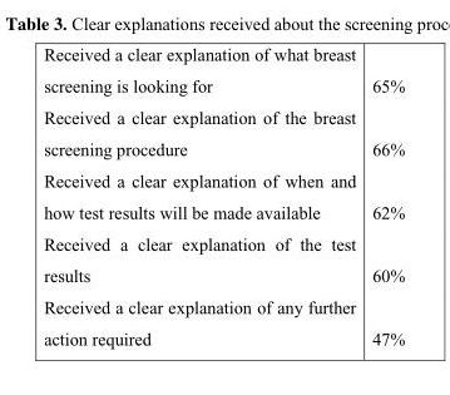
<table><tbody><tr><td>Received a clear explanation of what breast screening is looking for</td><td>65%</td></tr><tr><td>Received a clear explanation of the breast screening procedure</td><td>66%</td></tr><tr><td>Received a clear explanation of when and how test results will be made available</td><td>62%</td></tr><tr><td>Received a clear explanation of the test results</td><td>60%</td></tr><tr><td>Received a clear explanation of any further action required</td><td>47%</td></tr></tbody></table>